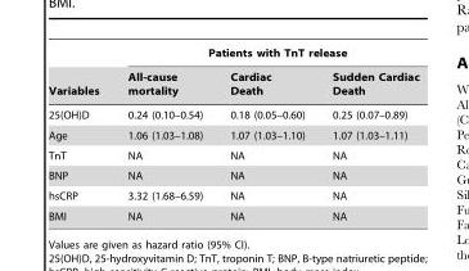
<table><thead><tr><td rowspan="2">Variables</td><td colspan="3">Patients with TnT release</td></tr><tr><td>All-cause mortality</td><td>Cardiac Death</td><td>Sudden Cardiac Death</td></tr></thead><tbody><tr><td>25(OH)D</td><td>0.24 (0.10–0.54)</td><td>0.18 (0.05–0.60)</td><td>0.25 (0.07–0.89)</td></tr><tr><td>Age</td><td>1.06 (1.03–1.08)</td><td>1.07 (1.03–1.10)</td><td>1.07 (1.03–1.11)</td></tr><tr><td>TnT</td><td>NA</td><td>NA</td><td>NA</td></tr><tr><td>BNP</td><td>NA</td><td>NA</td><td>NA</td></tr><tr><td>hsCRP</td><td>3.32 (1.68–6.59)</td><td>NA</td><td>NA</td></tr><tr><td>BMI</td><td>NA</td><td>NA</td><td>NA</td></tr></tbody></table>